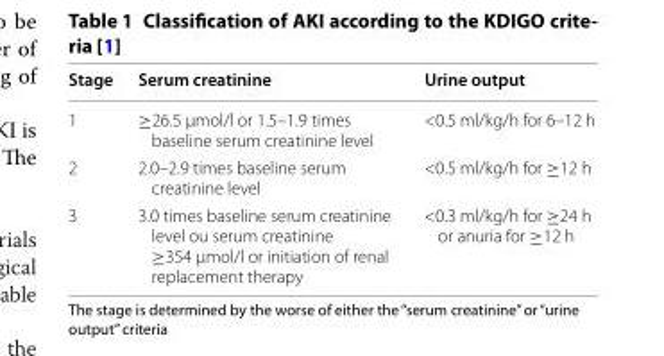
<table><thead><tr><td>Stage</td><td>Serum creatinine</td><td>Urine output</td></tr></thead><tbody><tr><td>1</td><td>≥26.5 μmol/l or 1.5–1.9 times baseline serum creatinine level</td><td>&lt;0.5 ml/kg/h for 6–12 h</td></tr><tr><td>2</td><td>2.0–2.9 times baseline serum creatinine level</td><td>&lt;0.5 ml/kg/h for ≥12 h</td></tr><tr><td>3</td><td>3.0 times baseline serum creatinine level ou serum creatinine ≥354 µmol/l or initiation of renal replacement therapy</td><td>&lt;0.3 ml/kg/h for ≥24 h or anuria for ≥12 h</td></tr></tbody></table>